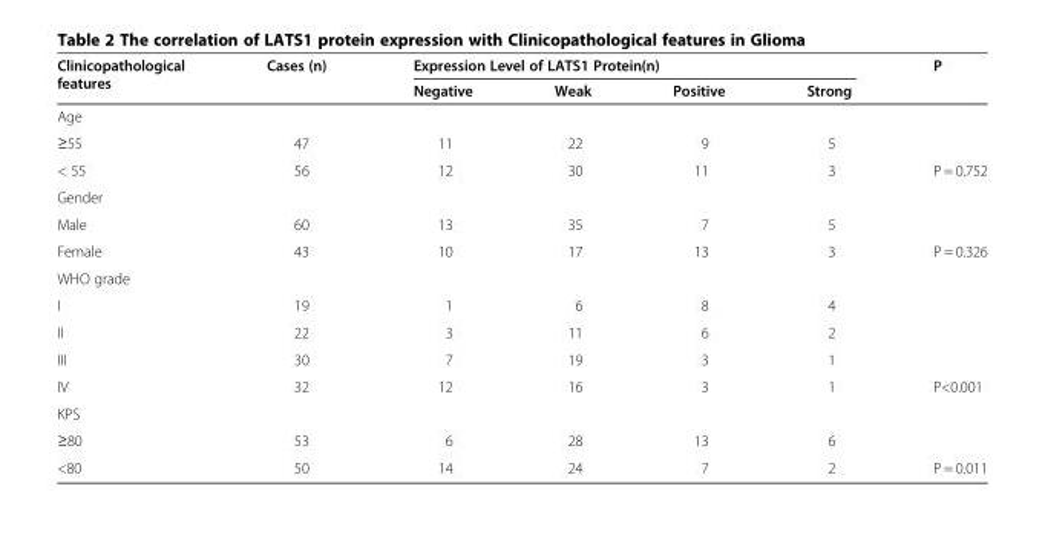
<table><thead><tr><td rowspan="2">Clinicopathological features</td><td rowspan="2">Cases (n)</td><td colspan="4">Expression Level of LATS1 Protein(n)</td><td rowspan="2">P</td></tr><tr><td>Negative</td><td>Weak</td><td>Positive</td><td>Strong</td></tr></thead><tbody><tr><td colspan="7">Age</td></tr><tr><td>≥55</td><td>47</td><td>11</td><td>22</td><td>9</td><td>5</td><td></td></tr><tr><td>&lt; 55</td><td>56</td><td>12</td><td>30</td><td>11</td><td>3</td><td>P = 0.752</td></tr><tr><td colspan="7">Gender</td></tr><tr><td>Male</td><td>60</td><td>13</td><td>35</td><td>7</td><td>5</td><td></td></tr><tr><td>Female</td><td>43</td><td>10</td><td>17</td><td>13</td><td>3</td><td>P = 0.326</td></tr><tr><td colspan="7">WHO grade</td></tr><tr><td>I</td><td>19</td><td>1</td><td>6</td><td>8</td><td>4</td><td></td></tr><tr><td>II</td><td>22</td><td>3</td><td>11</td><td>6</td><td>2</td><td></td></tr><tr><td>III</td><td>30</td><td>7</td><td>19</td><td>3</td><td>1</td><td></td></tr><tr><td>IV</td><td>32</td><td>12</td><td>16</td><td>3</td><td>1</td><td>P&lt;0.001</td></tr><tr><td colspan="7">KPS</td></tr><tr><td>≥80</td><td>53</td><td>6</td><td>28</td><td>13</td><td>6</td><td></td></tr><tr><td>&lt;80</td><td>50</td><td>14</td><td>24</td><td>7</td><td>2</td><td>P = 0.011</td></tr></tbody></table>